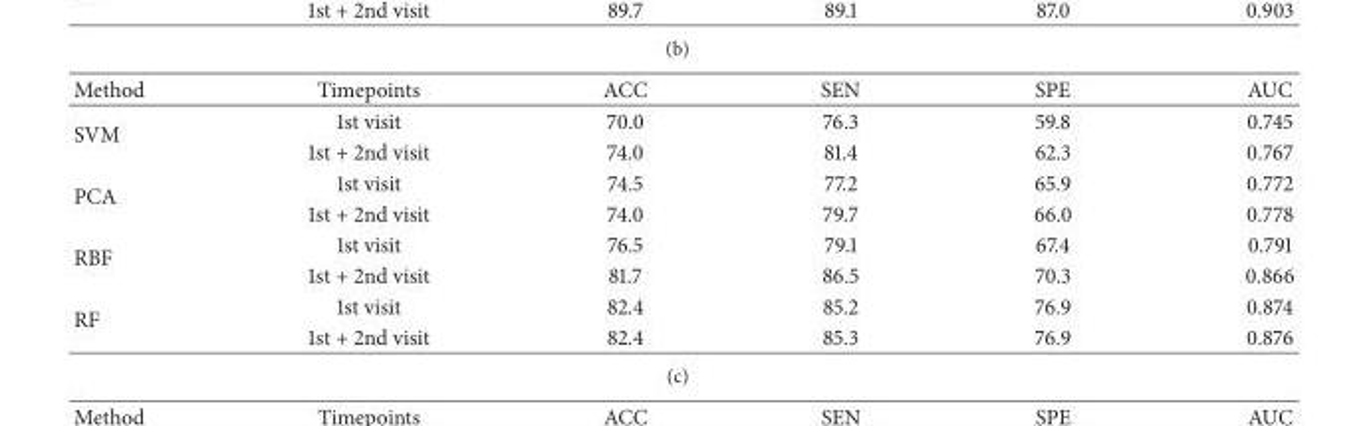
<table><thead><tr><td>Method</td><td>Timepoints</td><td>ACC</td><td>SEN</td><td>SPE</td><td>AUC</td></tr></thead><tbody><tr><td rowspan="2">SVM</td><td>1st visit</td><td>70.0</td><td>76.3</td><td>59.8</td><td>0.745</td></tr><tr><td>1st + 2nd visit</td><td>74.0</td><td>81.4</td><td>62.3</td><td>0.767</td></tr><tr><td rowspan="2">PCA</td><td>1st visit</td><td>74.5</td><td>77.2</td><td>65.9</td><td>0.772</td></tr><tr><td>1st + 2nd visit</td><td>74.0</td><td>79.7</td><td>66.0</td><td>0.778</td></tr><tr><td rowspan="2">RBF</td><td>1st visit</td><td>76.5</td><td>79.1</td><td>67.4</td><td>0.791</td></tr><tr><td>1st + 2nd visit</td><td>81.7</td><td>86.5</td><td>70.3</td><td>0.866</td></tr><tr><td rowspan="2">RF</td><td>1st visit</td><td>82.4</td><td>85.2</td><td>76.9</td><td>0.874</td></tr><tr><td>1st + 2nd visit</td><td>82.4</td><td>85.3</td><td>76.9</td><td>0.876</td></tr></tbody></table>